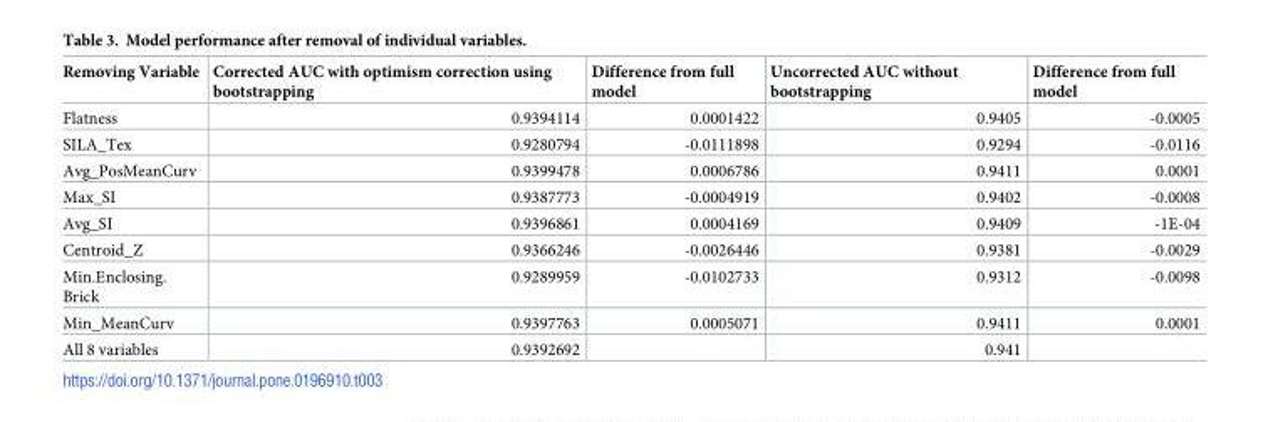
<table><thead><tr><td>Removing Variable</td><td>Corrected AUC with optimism correction using bootstrapping</td><td>Difference from full model</td><td>Uncorrected AUC without bootstrapping</td><td>Difference from full model</td></tr></thead><tbody><tr><td>Flatness</td><td>0.9394114</td><td>0.0001422</td><td>0.9405</td><td>-0.0005</td></tr><tr><td>SILA_Tex</td><td>0.9280794</td><td>-0.0111898</td><td>0.9294</td><td>-0.0116</td></tr><tr><td>Avg_PosMeanCurv</td><td>0.9399478</td><td>0.0006786</td><td>0.9411</td><td>0.0001</td></tr><tr><td>Max_SI</td><td>0.9387773</td><td>-0.0004919</td><td>0.9402</td><td>-0.0008</td></tr><tr><td>Avg_SI</td><td>0.9396861</td><td>0.0004169</td><td>0.9409</td><td>-1E-04</td></tr><tr><td>Centroid_Z</td><td>0.9366246</td><td>-0.0026446</td><td>0.9381</td><td>-0.0029</td></tr><tr><td>Min.Enclosing. Brick</td><td>0.9289959</td><td>-0.0102733</td><td>0.9312</td><td>-0.0098</td></tr><tr><td>Min_MeanCurv</td><td>0.9397763</td><td>0.0005071</td><td>0.9411</td><td>0.0001</td></tr><tr><td>All 8 variables</td><td>0.9392692</td><td></td><td>0.941</td><td></td></tr></tbody></table>